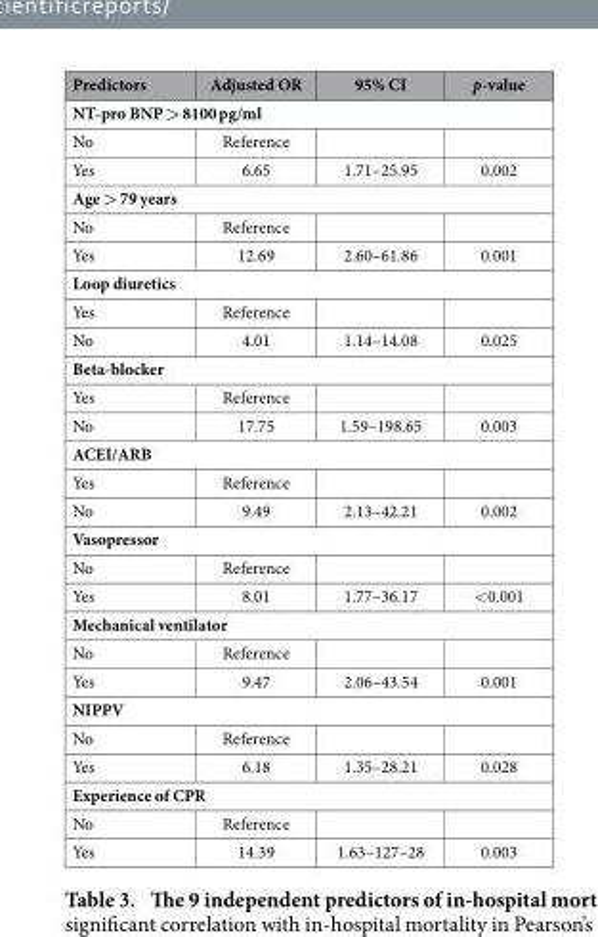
<table><thead><tr><td>Predictors</td><td>Adjusted OR</td><td>95% CI</td><td>p-value</td></tr></thead><tbody><tr><td colspan="4">NT-pro BNP &gt; 8100 pg/ml</td></tr><tr><td>No</td><td>Reference</td><td></td><td></td></tr><tr><td>Yes</td><td>6.65</td><td>1.71–25.95</td><td>0.002</td></tr><tr><td colspan="4">Age &gt; 79 years</td></tr><tr><td>No</td><td>Reference</td><td></td><td></td></tr><tr><td>Yes</td><td>12.69</td><td>2.60–61.86</td><td>0.001</td></tr><tr><td colspan="4">Loop diuretics</td></tr><tr><td>Yes</td><td>Reference</td><td></td><td></td></tr><tr><td>No</td><td>4.01</td><td>1.14–14.08</td><td>0.025</td></tr><tr><td colspan="4">Beta-blocker</td></tr><tr><td>Yes</td><td>Reference</td><td></td><td></td></tr><tr><td>No</td><td>17.75</td><td>1.59–198.65</td><td>0.003</td></tr><tr><td colspan="4">ACEI/ARB</td></tr><tr><td>Yes</td><td>Reference</td><td></td><td></td></tr><tr><td>No</td><td>9.49</td><td>2.13–42.21</td><td>0.002</td></tr><tr><td colspan="4">Vasopressor</td></tr><tr><td>No</td><td>Reference</td><td></td><td></td></tr><tr><td>Yes</td><td>8.01</td><td>1.77–36.17</td><td>&lt; 0.001</td></tr><tr><td colspan="4">Mechanical ventilator</td></tr><tr><td>No</td><td>Reference</td><td></td><td></td></tr><tr><td>Yes</td><td>9.47</td><td>2.06–43.54</td><td>0.001</td></tr><tr><td colspan="4">NIPPV</td></tr><tr><td>No</td><td>Reference</td><td></td><td></td></tr><tr><td>Yes</td><td>6.18</td><td>1.35–28.21</td><td>0.028</td></tr><tr><td colspan="4">Experience of CPR</td></tr><tr><td>No</td><td>Reference</td><td></td><td></td></tr><tr><td>Yes</td><td>14.39</td><td>1.63–127–28</td><td>0.003</td></tr></tbody></table>